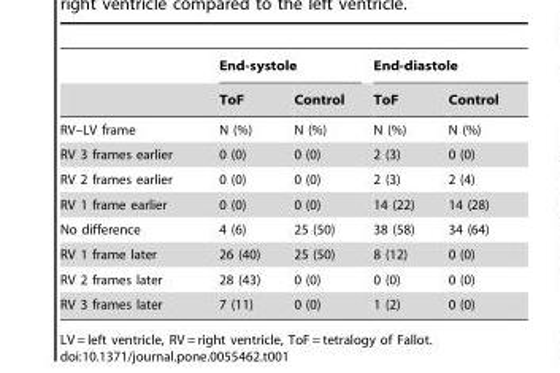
<table><thead><tr><td rowspan="2"></td><td colspan="2">End-systole</td><td colspan="2">End-diastole</td></tr><tr><td>ToF</td><td>Control</td><td>ToF</td><td>Control</td></tr></thead><tbody><tr><td>RV–LV frame</td><td>N (%)</td><td>N (%)</td><td>N (%)</td><td>N (%)</td></tr><tr><td>RV 3 frames earlier</td><td>0 (0)</td><td>0 (0)</td><td>2 (3)</td><td>0 (0)</td></tr><tr><td>RV 2 frames earlier</td><td>0 (0)</td><td>0 (0)</td><td>2 (3)</td><td>2 (4)</td></tr><tr><td>RV 1 frame earlier</td><td>0 (0)</td><td>0 (0)</td><td>14 (22)</td><td>14 (28)</td></tr><tr><td>No difference</td><td>4 (6)</td><td>25 (50)</td><td>38 (58)</td><td>34 (64)</td></tr><tr><td>RV 1 frame later</td><td>26 (40)</td><td>25 (50)</td><td>8 (12)</td><td>0 (0)</td></tr><tr><td>RV 2 frames later</td><td>28 (43)</td><td>0 (0)</td><td>0 (0)</td><td>0 (0)</td></tr><tr><td>RV 3 frames later</td><td>7 (11)</td><td>0 (0)</td><td>1 (2)</td><td>0 (0)</td></tr></tbody></table>